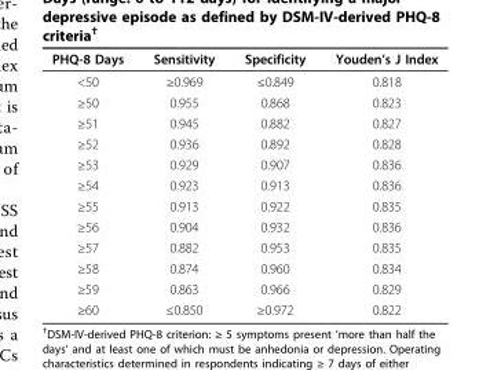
<table><thead><tr><td>PHQ-8 Days</td><td>Sensitivity</td><td>Specificity</td><td>Youden’s J Index</td></tr></thead><tbody><tr><td>&lt;50</td><td>≥0.969</td><td>≤0.849</td><td>0.818</td></tr><tr><td>≥50</td><td>0.955</td><td>0.868</td><td>0.823</td></tr><tr><td>≥51</td><td>0.945</td><td>0.882</td><td>0.827</td></tr><tr><td>≥52</td><td>0.936</td><td>0.892</td><td>0.828</td></tr><tr><td>≥53</td><td>0.929</td><td>0.907</td><td>0.836</td></tr><tr><td>≥54</td><td>0.923</td><td>0.913</td><td>0.836</td></tr><tr><td>≥55</td><td>0.913</td><td>0.922</td><td>0.835</td></tr><tr><td>≥56</td><td>0.904</td><td>0.932</td><td>0.836</td></tr><tr><td>≥57</td><td>0.882</td><td>0.953</td><td>0.835</td></tr><tr><td>≥58</td><td>0.874</td><td>0.960</td><td>0.834</td></tr><tr><td>≥59</td><td>0.863</td><td>0.966</td><td>0.829</td></tr><tr><td>≥60</td><td>≤0.850</td><td>≥0.972</td><td>0.822</td></tr></tbody></table>